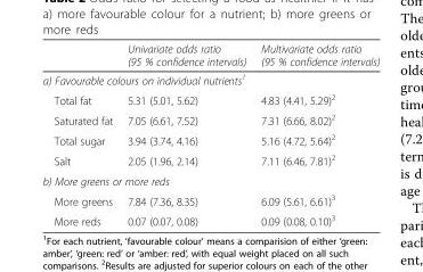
<table><thead><tr><td></td><td>Univariate odds ratio (95 % confidence intervals)</td><td>Multivariate odds ratio (95 % confidence intervals)</td></tr></thead><tbody><tr><td colspan="3">a) Favourable colours on individual nutrients<sup>1</sup></td></tr><tr><td>Total fat</td><td>5.31 (5.01, 5.62)</td><td>4.83 (4.41, 5.29)<sup>2</sup></td></tr><tr><td>Saturated fat</td><td>7.05 (6.61, 7.52)</td><td>7.31 (6.66, 8.02)<sup>2</sup></td></tr><tr><td>Total sugar</td><td>3.94 (3.74, 4.16)</td><td>5.16 (4.72, 5.64)<sup>2</sup></td></tr><tr><td>Salt</td><td>2.05 (1.96, 2.14)</td><td>7.11 (6.46, 7.81)<sup>2</sup></td></tr><tr><td colspan="3">b) More greens or more reds</td></tr><tr><td>More greens</td><td>7.84 (7.36, 8.35)</td><td>6.09 (5.61, 6.61)<sup>3</sup></td></tr><tr><td>More reds</td><td>0.07 (0.07, 0.08)</td><td>0.09 (0.08, 0.10)<sup>3</sup></td></tr></tbody></table>